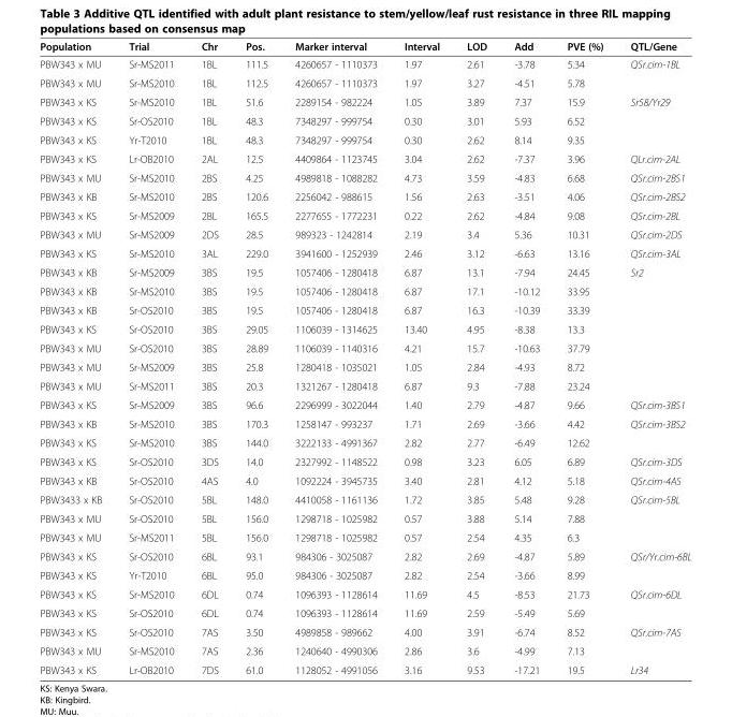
<table><thead><tr><td>Population</td><td>Trial</td><td>Chr</td><td>Pos.</td><td>Marker interval</td><td>Interval</td><td>LOD</td><td>Add</td><td>PVE (%)</td><td>QTL/Gene</td></tr></thead><tbody><tr><td>PBW343 x MU</td><td>Sr-MS2011</td><td>1BL</td><td>111.5</td><td>4260657 - 1110373</td><td>1.97</td><td>2.61</td><td>-3.78</td><td>5.34</td><td rowspan="2">QSr.cim-1BL</td></tr><tr><td>PBW343 x MU</td><td>Sr-MS2010</td><td>1BL</td><td>112.5</td><td>4260657 - 1110373</td><td>1.97</td><td>3.27</td><td>-4.51</td><td>5.78</td></tr><tr><td>PBW343 x KS</td><td>Sr-MS2010</td><td>1BL</td><td>51.6</td><td>2289154 - 982224</td><td>1.05</td><td>3.89</td><td>7.37</td><td>15.9</td><td rowspan="3">Sr58/Yr29</td></tr><tr><td>PBW343 x KS</td><td>Sr-OS2010</td><td>1BL</td><td>48.3</td><td>7348297 - 999754</td><td>0.30</td><td>3.01</td><td>5.93</td><td>6.52</td></tr><tr><td>PBW343 x KS</td><td>Yr-T2010</td><td>1BL</td><td>48.3</td><td>7348297 - 999754</td><td>0.30</td><td>2.62</td><td>8.14</td><td>9.35</td></tr><tr><td>PBW343 x KS</td><td>Lr-OB2010</td><td>2AL</td><td>12.5</td><td>4409864 - 1123745</td><td>3.04</td><td>2.62</td><td>-7.37</td><td>3.96</td><td>QLr.cim-2AL</td></tr><tr><td>PBW343 x MU</td><td>Sr-MS2010</td><td>2BS</td><td>4.25</td><td>4989818 - 1088282</td><td>4.73</td><td>3.59</td><td>-4.83</td><td>6.68</td><td>QSr.cim-2BS1</td></tr><tr><td>PBW343 x KB</td><td>Sr-MS2010</td><td>2BS</td><td>120.6</td><td>2256042 - 988615</td><td>1.56</td><td>2.63</td><td>-3.51</td><td>4.06</td><td>QSr.cim-2BS2</td></tr><tr><td>PBW343 x KS</td><td>Sr-MS2009</td><td>2BL</td><td>165.5</td><td>2277655 - 1772231</td><td>0.22</td><td>2.62</td><td>-4.84</td><td>9.08</td><td>QSr.cim-2BL</td></tr><tr><td>PBW343 x MU</td><td>Sr-MS2009</td><td>2DS</td><td>28.5</td><td>989323 - 1242814</td><td>2.19</td><td>3.4</td><td>5.36</td><td>10.31</td><td>QSr.cim-2DS</td></tr><tr><td>PBW343 x KS</td><td>Sr-MS2010</td><td>3AL</td><td>229.0</td><td>3941600 - 1252939</td><td>2.46</td><td>3.12</td><td>-6.63</td><td>13.16</td><td>QSr.cim-3AL</td></tr><tr><td>PBW343 x KB</td><td>Sr-MS2009</td><td>3BS</td><td>19.5</td><td>1057406 - 1280418</td><td>6.87</td><td>13.1</td><td>-7.94</td><td>24.45</td><td rowspan="7">Sr2</td></tr><tr><td>PBW343 x KB</td><td>Sr-MS2010</td><td>3BS</td><td>19.5</td><td>1057406 - 1280418</td><td>6.87</td><td>17.1</td><td>-10.12</td><td>33.95</td></tr><tr><td>PBW343 x KB</td><td>Sr-OS2010</td><td>3BS</td><td>19.5</td><td>1057406 - 1280418</td><td>6.87</td><td>16.3</td><td>-10.39</td><td>33.39</td></tr><tr><td>PBW343 x KS</td><td>Sr-OS2010</td><td>3BS</td><td>29.05</td><td>1106039 - 1314625</td><td>13.40</td><td>4.95</td><td>-8.38</td><td>13.3</td></tr><tr><td>PBW343 x MU</td><td>Sr-OS2010</td><td>3BS</td><td>28.89</td><td>1106039 - 1140316</td><td>4.21</td><td>15.7</td><td>-10.63</td><td>37.79</td></tr><tr><td>PBW343 x MU</td><td>Sr-MS2009</td><td>3BS</td><td>25.8</td><td>1280418 - 1035021</td><td>1.05</td><td>2.84</td><td>-4.93</td><td>8.72</td></tr><tr><td>PBW343 x MU</td><td>Sr-MS2011</td><td>3BS</td><td>20.3</td><td>1321267 - 1280418</td><td>6.87</td><td>9.3</td><td>-7.88</td><td>23.24</td></tr><tr><td>PBW343 x KS</td><td>Sr-MS2009</td><td>3BS</td><td>96.6</td><td>2296999 - 3022044</td><td>1.40</td><td>2.79</td><td>-4.87</td><td>9.66</td><td>QSr.cim-3BS1</td></tr><tr><td>PBW343 x KB</td><td>Sr-MS2010</td><td>3BS</td><td>170.3</td><td>1258147 - 993237</td><td>1.71</td><td>2.69</td><td>-3.66</td><td>4.42</td><td rowspan="2">QSr.cim-3BS2</td></tr><tr><td>PBW343 x KS</td><td>Sr-MS2010</td><td>3BS</td><td>144.0</td><td>3222133 - 4991367</td><td>2.82</td><td>2.77</td><td>-6.49</td><td>12.62</td></tr><tr><td>PBW343 x KS</td><td>Sr-OS2010</td><td>3DS</td><td>14.0</td><td>2327992 - 1148522</td><td>0.98</td><td>3.23</td><td>6.05</td><td>6.89</td><td>QSr.cim-3DS</td></tr><tr><td>PBW343 x KB</td><td>Sr-OS2010</td><td>4AS</td><td>4.0</td><td>1092224 - 3945735</td><td>3.40</td><td>2.81</td><td>4.12</td><td>5.18</td><td>QSr.cim-4AS</td></tr><tr><td>PBW3433 x KB</td><td>Sr-OS2010</td><td>5BL</td><td>148.0</td><td>4410058 - 1161136</td><td>1.72</td><td>3.85</td><td>5.48</td><td>9.28</td><td rowspan="3">QSr.cim-5BL</td></tr><tr><td>PBW343 x MU</td><td>Sr-OS2010</td><td>5BL</td><td>156.0</td><td>1298718 - 1025982</td><td>0.57</td><td>3.88</td><td>5.14</td><td>7.88</td></tr><tr><td>PBW343 x MU</td><td>Sr-MS2011</td><td>5BL</td><td>156.0</td><td>1298718 - 1025982</td><td>0.57</td><td>2.54</td><td>4.35</td><td>6.3</td></tr><tr><td>PBW343 x KS</td><td>Sr-OS2010</td><td>6BL</td><td>93.1</td><td>984306 - 3025087</td><td>2.82</td><td>2.69</td><td>-4.87</td><td>5.89</td><td rowspan="2">QSr/Yr.cim-6BL</td></tr><tr><td>PBW343 x KS</td><td>Yr-T2010</td><td>6BL</td><td>95.0</td><td>984306 - 3025087</td><td>2.82</td><td>2.54</td><td>-3.66</td><td>8.99</td></tr><tr><td>PBW343 x KS</td><td>Sr-MS2010</td><td>6DL</td><td>0.74</td><td>1096393 - 1128614</td><td>11.69</td><td>4.5</td><td>-8.53</td><td>21.73</td><td rowspan="2">QSr.cim-6DL</td></tr><tr><td>PBW343 x KS</td><td>Sr-OS2010</td><td>6DL</td><td>0.74</td><td>1096393 - 1128614</td><td>11.69</td><td>2.59</td><td>-5.49</td><td>5.69</td></tr><tr><td>PBW343 x KS</td><td>Sr-OS2010</td><td>7AS</td><td>3.50</td><td>4989858 - 989662</td><td>4.00</td><td>3.91</td><td>-6.74</td><td>8.52</td><td rowspan="2">QSr.cim-7AS</td></tr><tr><td>PBW343 x MU</td><td>Sr-MS2010</td><td>7AS</td><td>2.36</td><td>1240640 - 4990306</td><td>2.86</td><td>3.6</td><td>-4.99</td><td>7.13</td></tr><tr><td>PBW343 x KS</td><td>Lr-OB2010</td><td>7DS</td><td>61.0</td><td>1128052 - 4991056</td><td>3.16</td><td>9.53</td><td>-17.21</td><td>19.5</td><td>Lr34</td></tr></tbody></table>